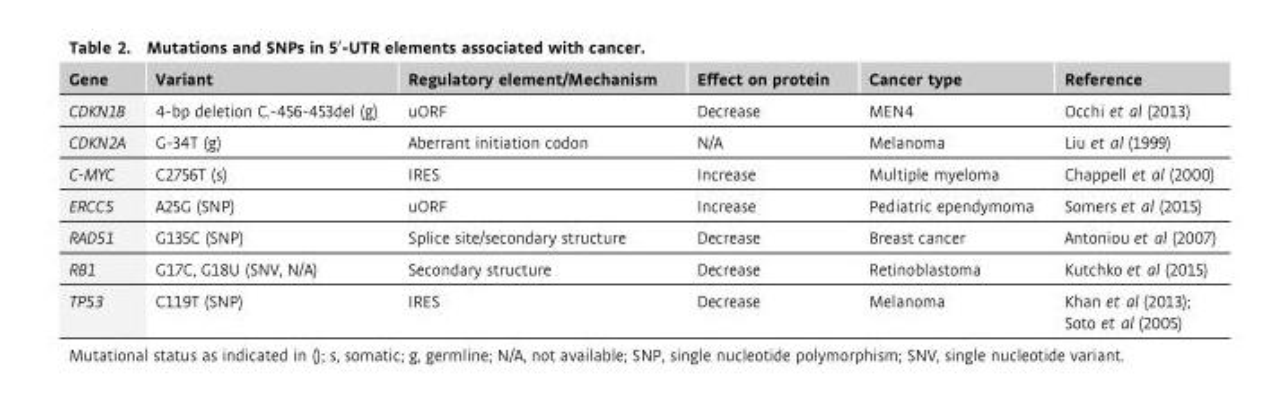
<table><thead><tr><td>Gene</td><td>Variant</td><td>Regulatory element/Mechanism</td><td>Effect on protein</td><td>Cancer type</td><td>Reference</td></tr></thead><tbody><tr><td>CDKN1B</td><td>4-bp deletion C.-456-453del (g)</td><td>uORF</td><td>Decrease</td><td>MEN4</td><td>Occhi et al (2013)</td></tr><tr><td>CDKN2A</td><td>G-34T (g)</td><td>Aberrant initiation codon</td><td>N/A</td><td>Melanoma</td><td>Liu et al (1999)</td></tr><tr><td>C-MYC</td><td>C2756T (s)</td><td>IRES</td><td>Increase</td><td>Multiple myeloma</td><td>Chappell et al (2000)</td></tr><tr><td>ERCC5</td><td>A25G (SNP)</td><td>uORF</td><td>Increase</td><td>Pediatric ependymoma</td><td>Somers et al (2015)</td></tr><tr><td>RAD51</td><td>G135C (SNP)</td><td>Splice site/secondary structure</td><td>Decrease</td><td>Breast cancer</td><td>Antoniou et al (2007)</td></tr><tr><td>RB1</td><td>G17C, G18U (SNV, N/A)</td><td>Secondary structure</td><td>Decrease</td><td>Retinoblastoma</td><td>Kutchko et al (2015)</td></tr><tr><td>TP53</td><td>C119T (SNP)</td><td>IRES</td><td>Decrease</td><td>Melanoma</td><td>Khan et al (2013); Soto et al (2005)</td></tr></tbody></table>